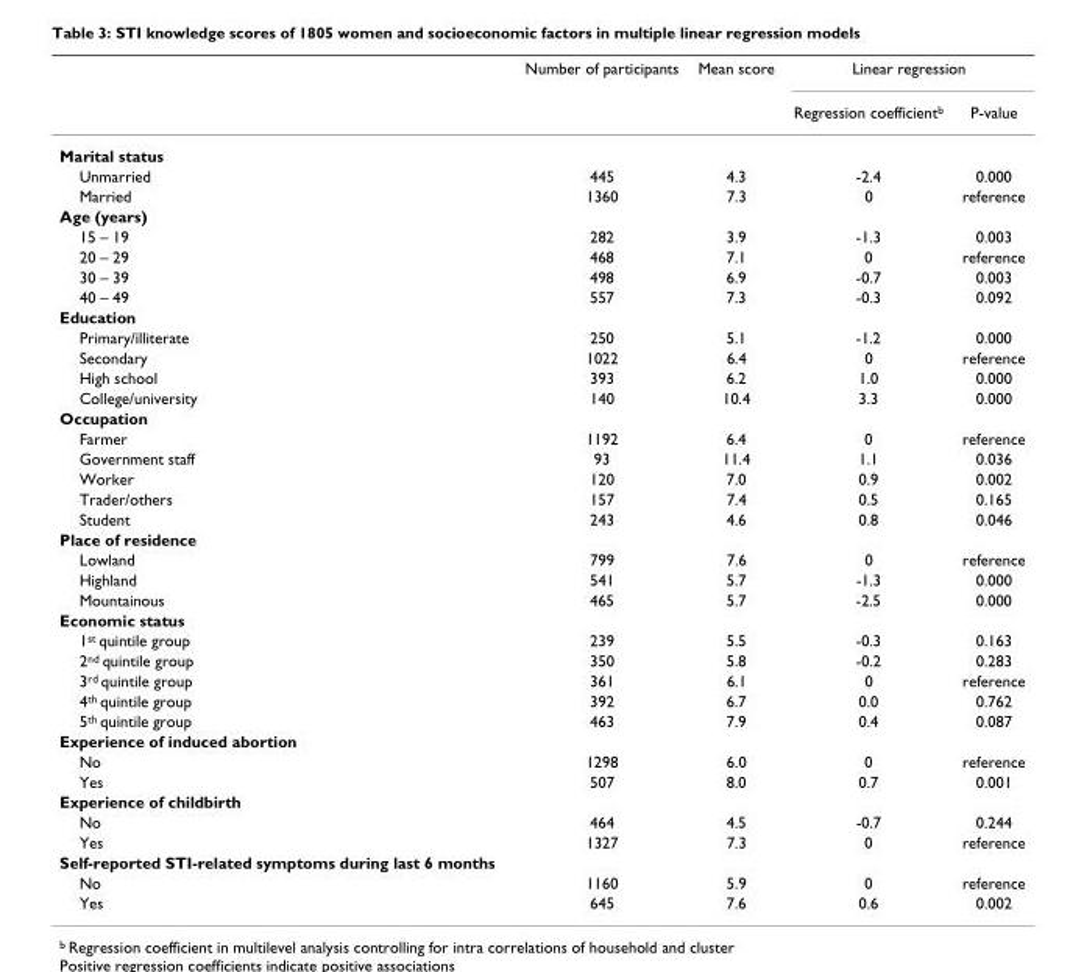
<table><thead><tr><td rowspan="2"></td><td rowspan="2">Number of participants</td><td rowspan="2">Mean score</td><td colspan="2">Linear regression</td></tr><tr><td>Regression coefficient<sup>b</sup></td><td>P-value</td></tr></thead><tbody><tr><td colspan="5">Marital status</td></tr><tr><td>Unmarried</td><td>445</td><td>4.3</td><td>-2.4</td><td>0.000</td></tr><tr><td>Married</td><td>1360</td><td>7.3</td><td>0</td><td>reference</td></tr><tr><td colspan="5">Age (years)</td></tr><tr><td>15 – 19</td><td>282</td><td>3.9</td><td>-1.3</td><td>0.003</td></tr><tr><td>20 – 29</td><td>468</td><td>7.1</td><td>0</td><td>reference</td></tr><tr><td>30 – 39</td><td>498</td><td>6.9</td><td>-0.7</td><td>0.003</td></tr><tr><td>40 – 49</td><td>557</td><td>7.3</td><td>-0.3</td><td>0.092</td></tr><tr><td colspan="5">Education</td></tr><tr><td>Primary/illiterate</td><td>250</td><td>5.1</td><td>-1.2</td><td>0.000</td></tr><tr><td>Secondary</td><td>1022</td><td>6.4</td><td>0</td><td>reference</td></tr><tr><td>High school</td><td>393</td><td>6.2</td><td>1.0</td><td>0.000</td></tr><tr><td>College/university</td><td>140</td><td>10.4</td><td>3.3</td><td>0.000</td></tr><tr><td colspan="5">Occupation</td></tr><tr><td>Farmer</td><td>1192</td><td>6.4</td><td>0</td><td>reference</td></tr><tr><td>Government staff</td><td>93</td><td>11.4</td><td>1.1</td><td>0.036</td></tr><tr><td>Worker</td><td>120</td><td>7.0</td><td>0.9</td><td>0.002</td></tr><tr><td>Trader/others</td><td>157</td><td>7.4</td><td>0.5</td><td>0.165</td></tr><tr><td>Student</td><td>243</td><td>4.6</td><td>0.8</td><td>0.046</td></tr><tr><td colspan="5">Place of residence</td></tr><tr><td>Lowland</td><td>799</td><td>7.6</td><td>0</td><td>reference</td></tr><tr><td>Highland</td><td>541</td><td>5.7</td><td>-1.3</td><td>0.000</td></tr><tr><td>Mountainous</td><td>465</td><td>5.7</td><td>-2.5</td><td>0.000</td></tr><tr><td colspan="5">Economic status</td></tr><tr><td>1<sup>st</sup> quintile group</td><td>239</td><td>5.5</td><td>-0.3</td><td>0.163</td></tr><tr><td>2<sup>nd</sup> quintile group</td><td>350</td><td>5.8</td><td>-0.2</td><td>0.283</td></tr><tr><td>3<sup>rd</sup> quintile group</td><td>361</td><td>6.1</td><td>0</td><td>reference</td></tr><tr><td>4<sup>th</sup> quintile group</td><td>392</td><td>6.7</td><td>0.0</td><td>0.762</td></tr><tr><td>5<sup>th</sup> quintile group</td><td>463</td><td>7.9</td><td>0.4</td><td>0.087</td></tr><tr><td colspan="5">Experience of induced abortion</td></tr><tr><td>No</td><td>1298</td><td>6.0</td><td>0</td><td>reference</td></tr><tr><td>Yes</td><td>507</td><td>8.0</td><td>0.7</td><td>0.001</td></tr><tr><td colspan="5">Experience of childbirth</td></tr><tr><td>No</td><td>464</td><td>4.5</td><td>-0.7</td><td>0.244</td></tr><tr><td>Yes</td><td>1327</td><td>7.3</td><td>0</td><td>reference</td></tr><tr><td colspan="5">Self-reported STI-related symptoms during last 6 months</td></tr><tr><td>No</td><td>1160</td><td>5.9</td><td>0</td><td>reference</td></tr><tr><td>Yes</td><td>645</td><td>7.6</td><td>0.6</td><td>0.002</td></tr></tbody></table>